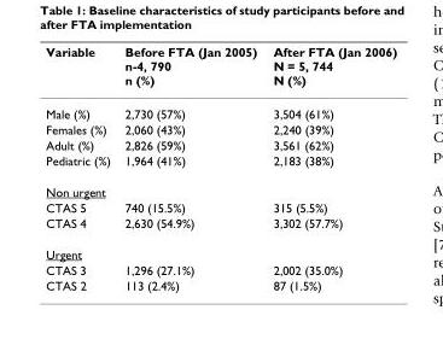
<table><thead><tr><td>Variable</td><td>Before FTA (Jan 2005) n-4, 790 n (%)</td><td>After FTA (Jan 2006) N = 5, 744 N (%)</td></tr></thead><tbody><tr><td>Male (%)</td><td>2,730 (57%)</td><td>3,504 (61%)</td></tr><tr><td>Females (%)</td><td>2,060 (43%)</td><td>2,240 (39%)</td></tr><tr><td>Adult (%)</td><td>2,826 (59%)</td><td>3,561 (62%)</td></tr><tr><td>Pediatric (%)</td><td>1,964 (41%)</td><td>2,183 (38%)</td></tr><tr><td colspan="3">Non urgent</td></tr><tr><td>CTAS 5</td><td>740 (15.5%)</td><td>315 (5.5%)</td></tr><tr><td>CTAS 4</td><td>2,630 (54.9%)</td><td>3,302 (57.7%)</td></tr><tr><td colspan="3">Urgent</td></tr><tr><td>CTAS 3</td><td>1,296 (27.1%)</td><td>2,002 (35.0%)</td></tr><tr><td>CTAS 2</td><td>113 (2.4%)</td><td>87 (1.5%)</td></tr></tbody></table>